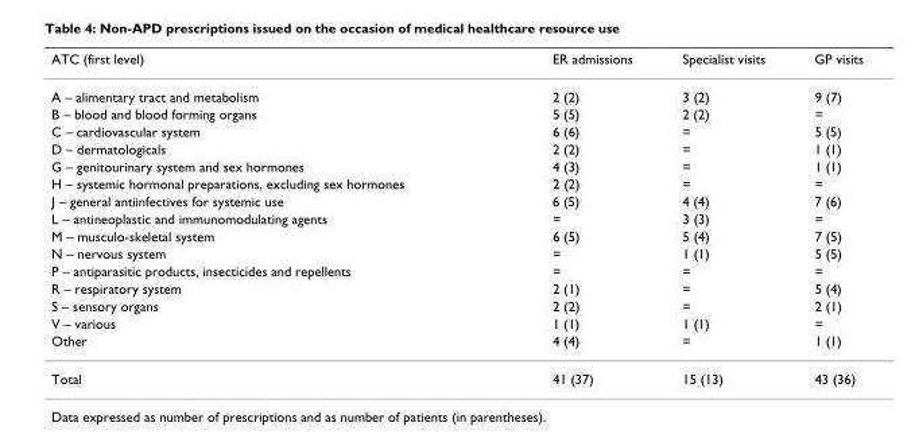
<table><thead><tr><td>ATC (first level)</td><td>ER admissions</td><td>Specialist visits</td><td>GP visits</td></tr></thead><tbody><tr><td>A – alimentary tract and metabolism</td><td>2 (2)</td><td>3 (2)</td><td>9 (7)</td></tr><tr><td>B – blood and blood forming organs</td><td>5 (5)</td><td>2 (2)</td><td>=</td></tr><tr><td>C – cardiovascular system</td><td>6 (6)</td><td>=</td><td>5 (5)</td></tr><tr><td>D – dermatologicals</td><td>2 (2)</td><td>=</td><td>1 (1)</td></tr><tr><td>G – genitourinary system and sex hormones</td><td>4 (3)</td><td>=</td><td>1 (1)</td></tr><tr><td>H – systemic hormonal preparations, excluding sex hormones</td><td>2 (2)</td><td>=</td><td>=</td></tr><tr><td>J – general antiinfectives for systemic use</td><td>6 (5)</td><td>4 (4)</td><td>7 (6)</td></tr><tr><td>L – antineoplastic and immunomodulating agents</td><td>=</td><td>3 (3)</td><td>=</td></tr><tr><td>M – musculo-skeletal system</td><td>6 (5)</td><td>5 (4)</td><td>7 (5)</td></tr><tr><td>N – nervous system</td><td>=</td><td>1 (1)</td><td>5 (5)</td></tr><tr><td>P – antiparasitic products, insecticides and repellents</td><td>=</td><td>=</td><td>=</td></tr><tr><td>R – respiratory system</td><td>2 (1)</td><td>=</td><td>5 (4)</td></tr><tr><td>S – sensory organs</td><td>2 (2)</td><td>=</td><td>2 (1)</td></tr><tr><td>V – various</td><td>1 (1)</td><td>1 (1)</td><td>=</td></tr><tr><td>Other</td><td>4 (4)</td><td>=</td><td>1 (1)</td></tr><tr><td>Total</td><td>41 (37)</td><td>15 (13)</td><td>43 (36)</td></tr></tbody></table>